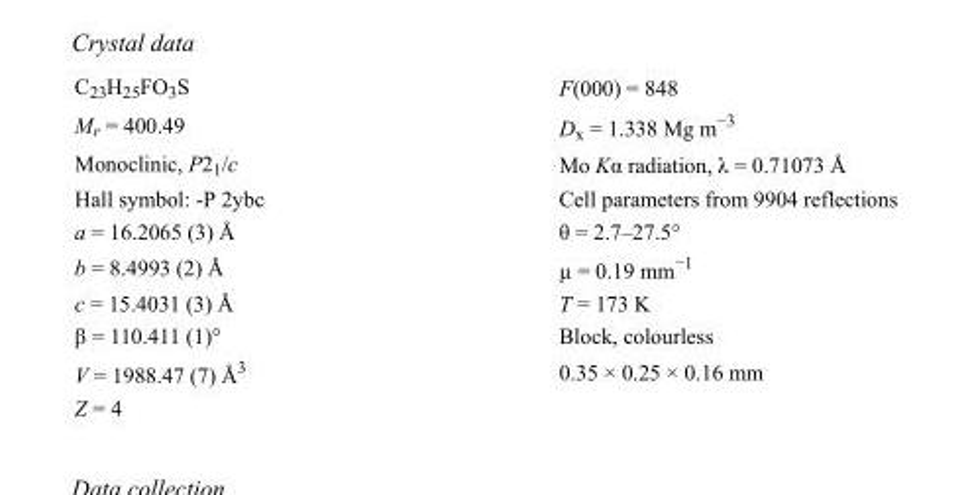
<table><tbody><tr><td>C<sub>23</sub>H<sub>25</sub>FO<sub>3</sub>S</td><td>F(000) = 848</td></tr><tr><td>M<sub>r</sub> = 400.49</td><td>D<sub>x</sub> = 1.338 Mg m<sup>−3</sup></td></tr><tr><td>Monoclinic, P2<sub>1</sub>/c</td><td>Mo Kα radiation, λ = 0.71073 Å</td></tr><tr><td>Hall symbol: -P 2ybc</td><td>Cell parameters from 9904 reflections</td></tr><tr><td>a = 16.2065 (3) Å</td><td>θ = 2.7–27.5°</td></tr><tr><td>b = 8.4993 (2) Å</td><td>µ = 0.19 mm<sup>−1</sup></td></tr><tr><td>c = 15.4031 (3) Å</td><td>T = 173 K</td></tr><tr><td>β = 110.411 (1)°</td><td>Block, colourless</td></tr><tr><td>V = 1988.47 (7) Å<sup>3</sup></td><td>0.35 × 0.25 × 0.16 mm</td></tr><tr><td>Z = 4</td><td></td></tr></tbody></table>